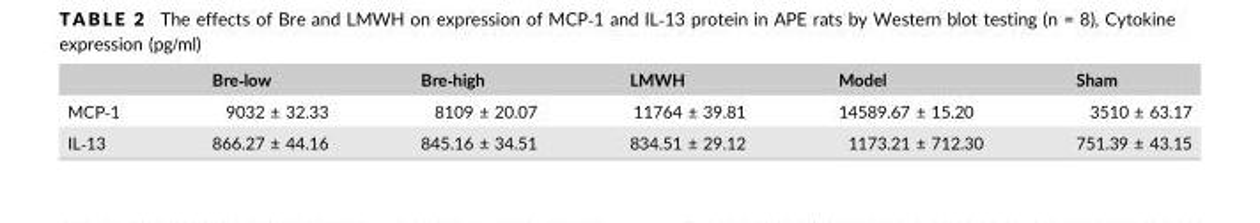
<table><thead><tr><td></td><td>Bre‐low</td><td>Bre‐high</td><td>LMWH</td><td>Model</td><td>Sham</td></tr></thead><tbody><tr><td>MCP‐1</td><td>9032 ± 32.33</td><td>8109 ± 20.07</td><td>11764 ± 39.81</td><td>14589.67 ± 15.20</td><td>3510 ± 63.17</td></tr><tr><td>IL‐13</td><td>866.27 ± 44.16</td><td>845.16 ± 34.51</td><td>834.51 ± 29.12</td><td>1173.21 ± 712.30</td><td>751.39 ± 43.15</td></tr></tbody></table>